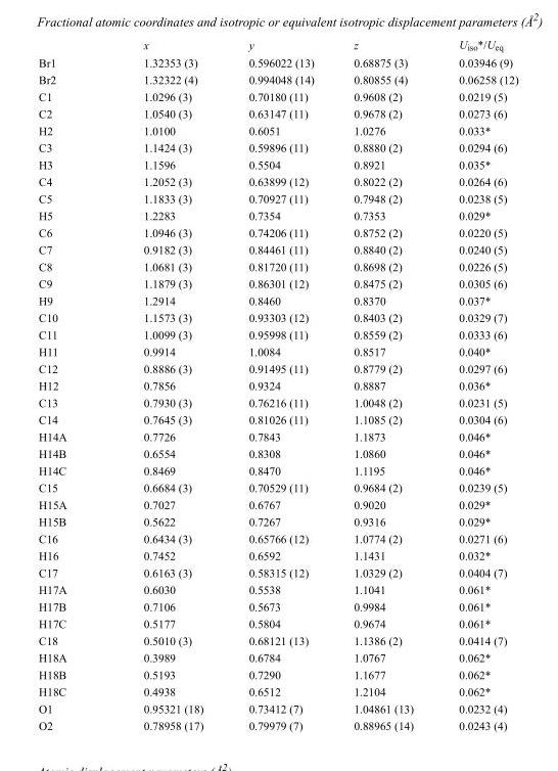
<table><thead><tr><td></td><td>x</td><td>y</td><td>z</td><td>U<sub>iso</sub>*/U<sub>eq</sub></td></tr></thead><tbody><tr><td>Br1</td><td>1.32353 (3)</td><td>0.596022 (13)</td><td>0.68875 (3)</td><td>0.03946 (9)</td></tr><tr><td>Br2</td><td>1.32322 (4)</td><td>0.994048 (14)</td><td>0.80855 (4)</td><td>0.06258 (12)</td></tr><tr><td>C1</td><td>1.0296 (3)</td><td>0.70180 (11)</td><td>0.9608 (2)</td><td>0.0219 (5)</td></tr><tr><td>C2</td><td>1.0540 (3)</td><td>0.63147 (11)</td><td>0.9678 (2)</td><td>0.0273 (6)</td></tr><tr><td>H2</td><td>1.0100</td><td>0.6051</td><td>1.0276</td><td>0.033*</td></tr><tr><td>C3</td><td>1.1424 (3)</td><td>0.59896 (11)</td><td>0.8880 (2)</td><td>0.0294 (6)</td></tr><tr><td>H3</td><td>1.1596</td><td>0.5504</td><td>0.8921</td><td>0.035*</td></tr><tr><td>C4</td><td>1.2052 (3)</td><td>0.63899 (12)</td><td>0.8022 (2)</td><td>0.0264 (6)</td></tr><tr><td>C5</td><td>1.1833 (3)</td><td>0.70927 (11)</td><td>0.7948 (2)</td><td>0.0238 (5)</td></tr><tr><td>H5</td><td>1.2283</td><td>0.7354</td><td>0.7353</td><td>0.029*</td></tr><tr><td>C6</td><td>1.0946 (3)</td><td>0.74206 (11)</td><td>0.8752 (2)</td><td>0.0220 (5)</td></tr><tr><td>C7</td><td>0.9182 (3)</td><td>0.84461 (11)</td><td>0.8840 (2)</td><td>0.0240 (5)</td></tr><tr><td>C8</td><td>1.0681 (3)</td><td>0.81720 (11)</td><td>0.8698 (2)</td><td>0.0226 (5)</td></tr><tr><td>C9</td><td>1.1879 (3)</td><td>0.86301 (12)</td><td>0.8475 (2)</td><td>0.0305 (6)</td></tr><tr><td>H9</td><td>1.2914</td><td>0.8460</td><td>0.8370</td><td>0.037*</td></tr><tr><td>C10</td><td>1.1573 (3)</td><td>0.93303 (12)</td><td>0.8403 (2)</td><td>0.0329 (7)</td></tr><tr><td>C11</td><td>1.0099 (3)</td><td>0.95998 (11)</td><td>0.8559 (2)</td><td>0.0333 (6)</td></tr><tr><td>H11</td><td>0.9914</td><td>1.0084</td><td>0.8517</td><td>0.040*</td></tr><tr><td>C12</td><td>0.8886 (3)</td><td>0.91495 (11)</td><td>0.8779 (2)</td><td>0.0297 (6)</td></tr><tr><td>H12</td><td>0.7856</td><td>0.9324</td><td>0.8887</td><td>0.036*</td></tr><tr><td>C13</td><td>0.7930 (3)</td><td>0.76216 (11)</td><td>1.0048 (2)</td><td>0.0231 (5)</td></tr><tr><td>C14</td><td>0.7645 (3)</td><td>0.81026 (11)</td><td>1.1085 (2)</td><td>0.0304 (6)</td></tr><tr><td>H14A</td><td>0.7726</td><td>0.7843</td><td>1.1873</td><td>0.046*</td></tr><tr><td>H14B</td><td>0.6554</td><td>0.8308</td><td>1.0860</td><td>0.046*</td></tr><tr><td>H14C</td><td>0.8469</td><td>0.8470</td><td>1.1195</td><td>0.046*</td></tr><tr><td>C15</td><td>0.6684 (3)</td><td>0.70529 (11)</td><td>0.9684 (2)</td><td>0.0239 (5)</td></tr><tr><td>H15A</td><td>0.7027</td><td>0.6767</td><td>0.9020</td><td>0.029*</td></tr><tr><td>H15B</td><td>0.5622</td><td>0.7267</td><td>0.9316</td><td>0.029*</td></tr><tr><td>C16</td><td>0.6434 (3)</td><td>0.65766 (12)</td><td>1.0774 (2)</td><td>0.0271 (6)</td></tr><tr><td>H16</td><td>0.7452</td><td>0.6592</td><td>1.1431</td><td>0.032*</td></tr><tr><td>C17</td><td>0.6163 (3)</td><td>0.58315 (12)</td><td>1.0329 (2)</td><td>0.0404 (7)</td></tr><tr><td>H17A</td><td>0.6030</td><td>0.5538</td><td>1.1041</td><td>0.061*</td></tr><tr><td>H17B</td><td>0.7106</td><td>0.5673</td><td>0.9984</td><td>0.061*</td></tr><tr><td>H17C</td><td>0.5177</td><td>0.5804</td><td>0.9674</td><td>0.061*</td></tr><tr><td>C18</td><td>0.5010 (3)</td><td>0.68121 (13)</td><td>1.1386 (2)</td><td>0.0414 (7)</td></tr><tr><td>H18A</td><td>0.3989</td><td>0.6784</td><td>1.0767</td><td>0.062*</td></tr><tr><td>H18B</td><td>0.5193</td><td>0.7290</td><td>1.1677</td><td>0.062*</td></tr><tr><td>H18C</td><td>0.4938</td><td>0.6512</td><td>1.2104</td><td>0.062*</td></tr><tr><td>O1</td><td>0.95321 (18)</td><td>0.73412 (7)</td><td>1.04861 (13)</td><td>0.0232 (4)</td></tr><tr><td>O2</td><td>0.78958 (17)</td><td>0.79979 (7)</td><td>0.88965 (14)</td><td>0.0243 (4)</td></tr></tbody></table>